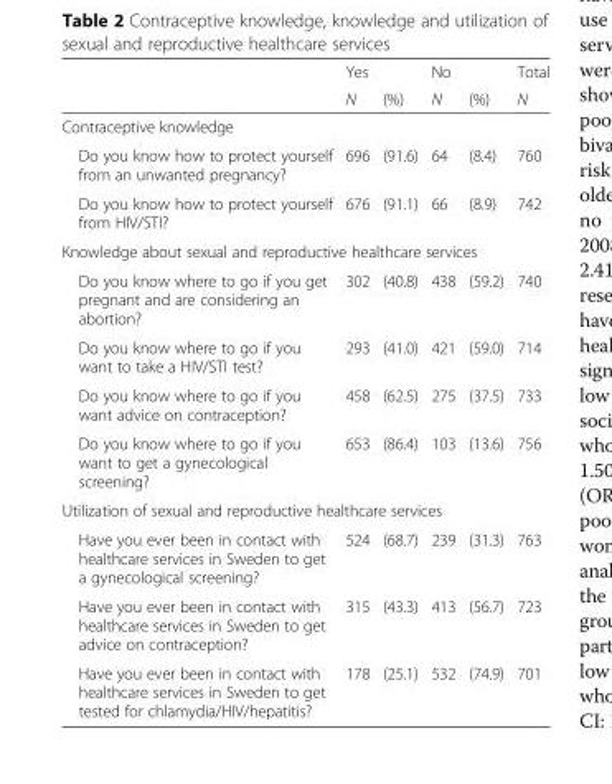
<table><thead><tr><td rowspan="2"></td><td rowspan="2">Yes N</td><td rowspan="2">(%)</td><td rowspan="2">No N</td><td rowspan="2">(%)</td><td rowspan="2">Total N</td></tr><tr></tr></thead><tbody><tr><td colspan="6">Contraceptive knowledge</td></tr><tr><td>Do you know how to protect yourself from an unwanted pregnancy?</td><td>696</td><td>(91.6)</td><td>64</td><td>(8.4)</td><td>760</td></tr><tr><td>Do you know how to protect yourself from HIV/STI?</td><td>676</td><td>(91.1)</td><td>66</td><td>(8.9)</td><td>742</td></tr><tr><td colspan="6">Knowledge about sexual and reproductive healthcare services</td></tr><tr><td>Do you know where to go if you get pregnant and are considering an abortion?</td><td>302</td><td>(40.8)</td><td>438</td><td>(59.2)</td><td>740</td></tr><tr><td>Do you know where to go if you want to take a HIV/STI test?</td><td>293</td><td>(41.0)</td><td>421</td><td>(59.0)</td><td>714</td></tr><tr><td>Do you know where to go if you want advice on contraception?</td><td>458</td><td>(62.5)</td><td>275</td><td>(37.5)</td><td>733</td></tr><tr><td>Do you know where to go if you want to get a gynecological screening?</td><td>653</td><td>(86.4)</td><td>103</td><td>(13.6)</td><td>756</td></tr><tr><td colspan="6">Utilization of sexual and reproductive healthcare services</td></tr><tr><td>Have you ever been in contact with healthcare services in Sweden to get a gynecological screening?</td><td>524</td><td>(68.7)</td><td>239</td><td>(31.3)</td><td>763</td></tr><tr><td>Have you ever been in contact with healthcare services in Sweden to get advice on contraception?</td><td>315</td><td>(43.3)</td><td>413</td><td>(56.7)</td><td>723</td></tr><tr><td>Have you ever been in contact with healthcare services in Sweden to get tested for chlamydia/HIV/hepatitis?</td><td>178</td><td>(25.1)</td><td>532</td><td>(74.9)</td><td>701</td></tr></tbody></table>